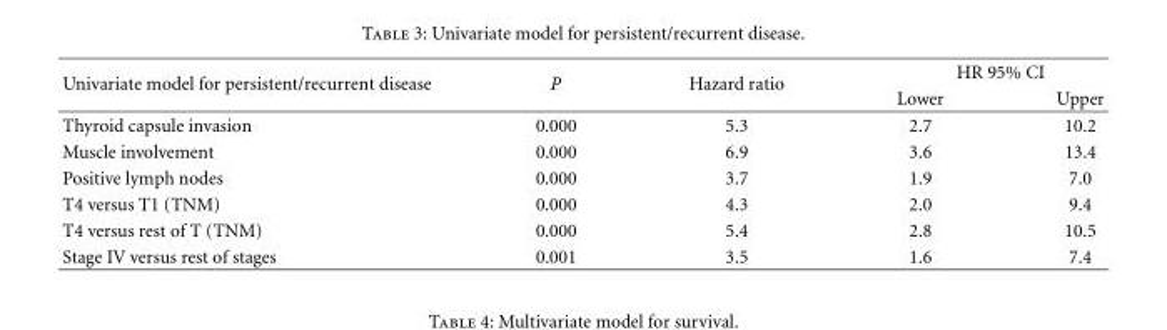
<table><thead><tr><td rowspan="2">Univariate model for persistent/recurrent disease</td><td rowspan="2">P</td><td rowspan="2">Hazard ratio</td><td colspan="2">HR 95% CI</td></tr><tr><td>Lower</td><td>Upper</td></tr></thead><tbody><tr><td>Thyroid capsule invasion</td><td>0.000</td><td>5.3</td><td>2.7</td><td>10.2</td></tr><tr><td>Muscle involvement</td><td>0.000</td><td>6.9</td><td>3.6</td><td>13.4</td></tr><tr><td>Positive lymph nodes</td><td>0.000</td><td>3.7</td><td>1.9</td><td>7.0</td></tr><tr><td>T4 versus T1 (TNM)</td><td>0.000</td><td>4.3</td><td>2.0</td><td>9.4</td></tr><tr><td>T4 versus rest of T (TNM)</td><td>0.000</td><td>5.4</td><td>2.8</td><td>10.5</td></tr><tr><td>Stage IV versus rest of stages</td><td>0.001</td><td>3.5</td><td>1.6</td><td>7.4</td></tr></tbody></table>